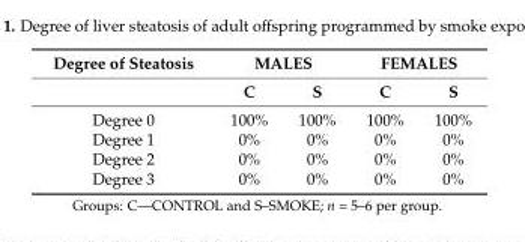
<table><thead><tr><td rowspan="2">Degree of Steatosis</td><td colspan="2">MALES</td><td colspan="2">FEMALES</td></tr><tr><td>C</td><td>S</td><td>C</td><td>S</td></tr></thead><tbody><tr><td>Degree 0</td><td>100%</td><td>100%</td><td>100%</td><td>100%</td></tr><tr><td>Degree 1</td><td>0%</td><td>0%</td><td>0%</td><td>0%</td></tr><tr><td>Degree 2</td><td>0%</td><td>0%</td><td>0%</td><td>0%</td></tr><tr><td>Degree 3</td><td>0%</td><td>0%</td><td>0%</td><td>0%</td></tr></tbody></table>